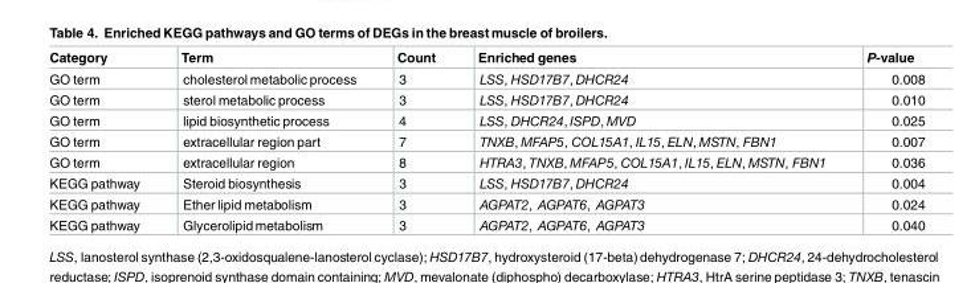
<table><thead><tr><td>Category</td><td>Term</td><td>Count</td><td>Enriched genes</td><td>P-value</td></tr></thead><tbody><tr><td>GO term</td><td>cholesterol metabolic process</td><td>3</td><td>LSS, HSD17B7, DHCR24</td><td>0.008</td></tr><tr><td>GO term</td><td>sterol metabolic process</td><td>3</td><td>LSS, HSD17B7, DHCR24</td><td>0.010</td></tr><tr><td>GO term</td><td>lipid biosynthetic process</td><td>4</td><td>LSS, DHCR24, ISPD, MVD</td><td>0.025</td></tr><tr><td>GO term</td><td>extracellular region part</td><td>7</td><td>TNXB, MFAP5, COL15A1, IL15, ELN, MSTN, FBN1</td><td>0.007</td></tr><tr><td>GO term</td><td>extracellular region</td><td>8</td><td>HTRA3, TNXB, MFAP5, COL15A1, IL15, ELN, MSTN, FBN1</td><td>0.036</td></tr><tr><td>KEGG pathway</td><td>Steroid biosynthesis</td><td>3</td><td>LSS, HSD17B7, DHCR24</td><td>0.004</td></tr><tr><td>KEGG pathway</td><td>Ether lipid metabolism</td><td>3</td><td>AGPAT2, AGPAT6, AGPAT3</td><td>0.024</td></tr><tr><td>KEGG pathway</td><td>Glycerolipid metabolism</td><td>3</td><td>AGPAT2, AGPAT6, AGPAT3</td><td>0.040</td></tr></tbody></table>